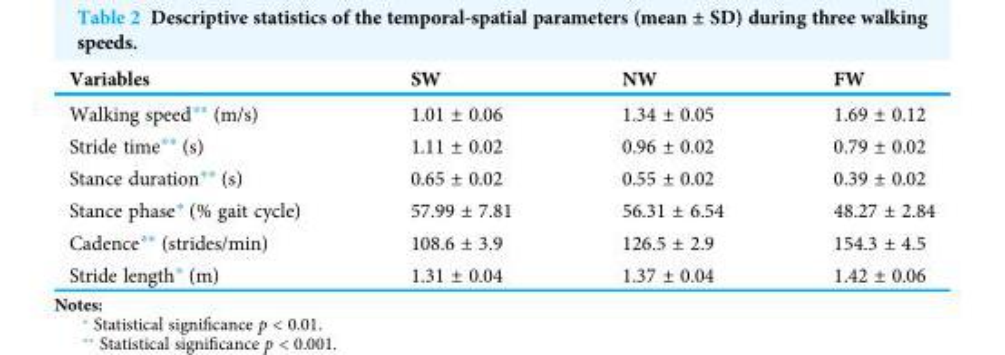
<table><thead><tr><td>Variables</td><td>SW</td><td>NW</td><td>FW</td></tr></thead><tbody><tr><td>Walking speed** (m/s)</td><td>1.01 ± 0.06</td><td>1.34 ± 0.05</td><td>1.69 ± 0.12</td></tr><tr><td>Stride time** (s)</td><td>1.11 ± 0.02</td><td>0.96 ± 0.02</td><td>0.79 ± 0.02</td></tr><tr><td>Stance duration** (s)</td><td>0.65 ± 0.02</td><td>0.55 ± 0.02</td><td>0.39 ± 0.02</td></tr><tr><td>Stance phase* (% gait cycle)</td><td>57.99 ± 7.81</td><td>56.31 ± 6.54</td><td>48.27 ± 2.84</td></tr><tr><td>Cadence** (strides/min)</td><td>108.6 ± 3.9</td><td>126.5 ± 2.9</td><td>154.3 ± 4.5</td></tr><tr><td>Stride length* (m)</td><td>1.31 ± 0.04</td><td>1.37 ± 0.04</td><td>1.42 ± 0.06</td></tr></tbody></table>